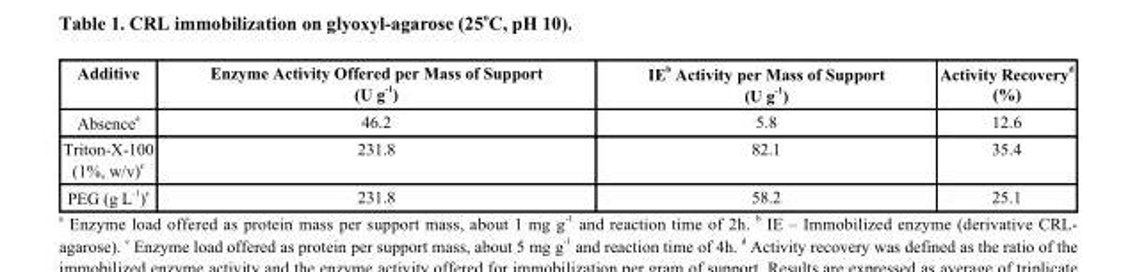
<table><thead><tr><td>Additive</td><td>Enzyme Activity Offered per Mass of Support (U g <sup>-1</sup>)</td><td>IE <sup>b</sup> Activity per Mass of Support (U g <sup>-1</sup>)</td><td>Activity Recovery <sup>d</sup> (%)</td></tr></thead><tbody><tr><td>Absence <sup>a</sup></td><td>46.2</td><td>5.8</td><td>12.6</td></tr><tr><td>Triton-X-100 (1%, w/v) <sup>c</sup></td><td>231.8</td><td>82.1</td><td>35.4</td></tr><tr><td>PEG (g L <sup>-1</sup>) <sup>c</sup></td><td>231.8</td><td>58.2</td><td>25.1</td></tr></tbody></table>